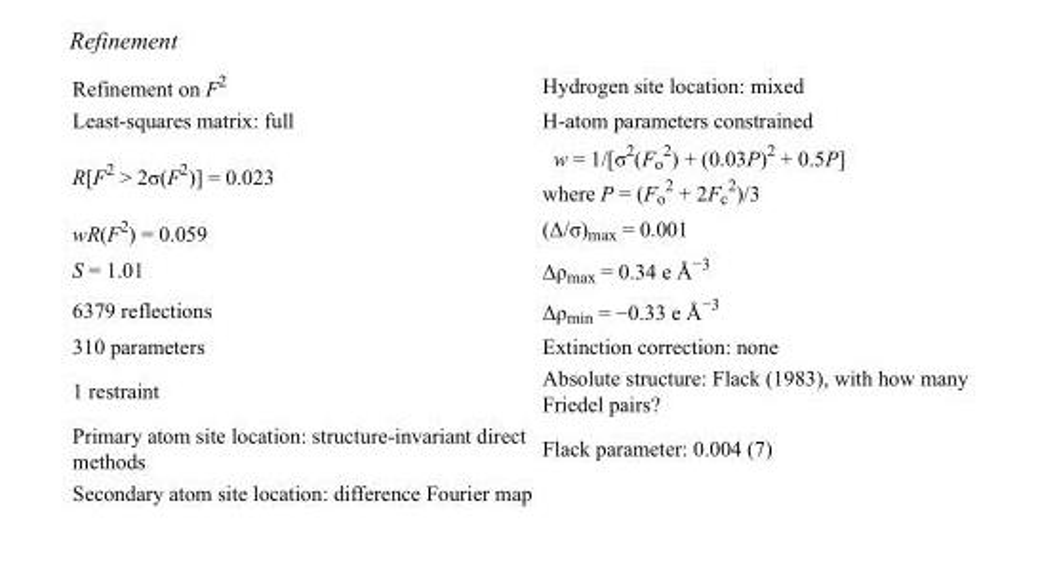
<table><tbody><tr><td>Refinement on F<sup>2</sup></td><td>Hydrogen site location: mixed</td></tr><tr><td>Least-squares matrix: full</td><td>H-atom parameters constrained</td></tr><tr><td>R[F<sup>2</sup> &gt; 2σ(F<sup>2</sup>)] = 0.023</td><td>w = 1/[σ<sup>2</sup>(F<sub>o</sub> <sup>2</sup>) + (0.03P)<sup>2</sup> + 0.5P] where P = (F<sub>o</sub> <sup>2</sup> + 2F<sub>c</sub> <sup>2</sup>)/3</td></tr><tr><td>wR(F<sup>2</sup>) = 0.059</td><td>(Δ/σ)<sub>max</sub> = 0.001</td></tr><tr><td>S = 1.01</td><td>Δρ<sub>max</sub> = 0.34 e Å<sup>−3</sup></td></tr><tr><td>6379 reflections</td><td>Δρ<sub>min</sub> = −0.33 e Å<sup>−3</sup></td></tr><tr><td>310 parameters</td><td>Extinction correction: none</td></tr><tr><td>1 restraint</td><td>Absolute structure: Flack (1983), with how many Friedel pairs?</td></tr><tr><td>Primary atom site location: structure-invariant direct methods</td><td>Flack parameter: 0.004 (7)</td></tr><tr><td>Secondary atom site location: difference Fourier map</td><td></td></tr></tbody></table>